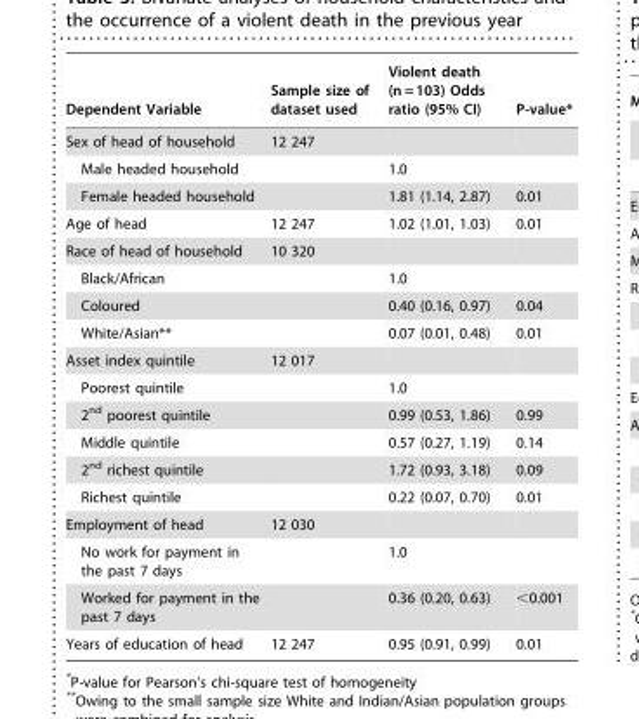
<table><thead><tr><td>Dependent Variable</td><td>Sample size of dataset used</td><td>Violent death (n = 103) Odds ratio (95% CI)</td><td>P-value*</td></tr></thead><tbody><tr><td>Sex of head of household</td><td>12 247</td><td></td><td></td></tr><tr><td>Male headed household</td><td></td><td>1.0</td><td></td></tr><tr><td>Female headed household</td><td></td><td>1.81 (1.14, 2.87)</td><td>0.01</td></tr><tr><td>Age of head</td><td>12 247</td><td>1.02 (1.01, 1.03)</td><td>0.01</td></tr><tr><td>Race of head of household</td><td>10 320</td><td></td><td></td></tr><tr><td>Black/African</td><td></td><td>1.0</td><td></td></tr><tr><td>Coloured</td><td></td><td>0.40 (0.16, 0.97)</td><td>0.04</td></tr><tr><td>White/Asian**</td><td></td><td>0.07 (0.01, 0.48)</td><td>0.01</td></tr><tr><td>Asset index quintile</td><td>12 017</td><td></td><td></td></tr><tr><td>Poorest quintile</td><td></td><td>1.0</td><td></td></tr><tr><td>2<sup>nd</sup> poorest quintile</td><td></td><td>0.99 (0.53, 1.86)</td><td>0.99</td></tr><tr><td>Middle quintile</td><td></td><td>0.57 (0.27, 1.19)</td><td>0.14</td></tr><tr><td>2<sup>nd</sup> richest quintile</td><td></td><td>1.72 (0.93, 3.18)</td><td>0.09</td></tr><tr><td>Richest quintile</td><td></td><td>0.22 (0.07, 0.70)</td><td>0.01</td></tr><tr><td>Employment of head</td><td>12 030</td><td></td><td></td></tr><tr><td>No work for payment in the past 7 days</td><td></td><td>1.0</td><td></td></tr><tr><td>Worked for payment in the past 7 days</td><td></td><td>0.36 (0.20, 0.63)</td><td>&lt;0.001</td></tr><tr><td>Years of education of head</td><td>12 247</td><td>0.95 (0.91, 0.99)</td><td>0.01</td></tr></tbody></table>